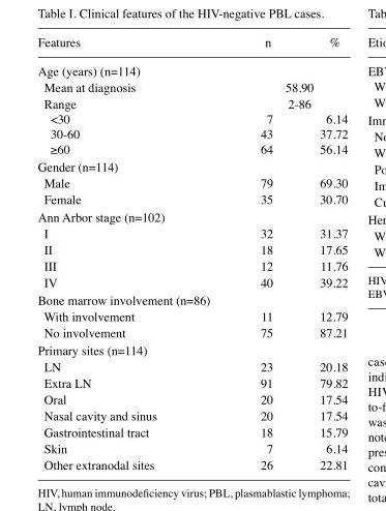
<table><thead><tr><td>Features</td><td>n</td><td>%</td></tr></thead><tbody><tr><td colspan="3">Age (years) (n=114)</td></tr><tr><td>Mean at diagnosis</td><td colspan="2">58.90</td></tr><tr><td>Range</td><td colspan="2">2-86</td></tr><tr><td>&lt;30</td><td>7</td><td>6.14</td></tr><tr><td>30-60</td><td>43</td><td>37.72</td></tr><tr><td>≥60</td><td>64</td><td>56.14</td></tr><tr><td colspan="3">gender (n=114)</td></tr><tr><td>Male</td><td>79</td><td>69.30</td></tr><tr><td>Female</td><td>35</td><td>30.70</td></tr><tr><td colspan="3">Ann Arbor stage (n=102)</td></tr><tr><td>Ⅰ</td><td>32</td><td>31.37</td></tr><tr><td>Ⅱ</td><td>18</td><td>17.65</td></tr><tr><td>Ⅲ</td><td>12</td><td>11.76</td></tr><tr><td>Ⅳ</td><td>40</td><td>39.22</td></tr><tr><td colspan="3">Bone marrow involvement (n=86)</td></tr><tr><td>With involvement</td><td>11</td><td>12.79</td></tr><tr><td>no involvement</td><td>75</td><td>87.21</td></tr><tr><td colspan="3">Primary sites (n=114)</td></tr><tr><td>Ln</td><td>23</td><td>20.18</td></tr><tr><td>Extra Ln</td><td>91</td><td>79.82</td></tr><tr><td>Oral</td><td>20</td><td>17.54</td></tr><tr><td>nasal cavity and sinus</td><td>20</td><td>17.54</td></tr><tr><td>gastrointestinal tract</td><td>18</td><td>15.79</td></tr><tr><td>Skin</td><td>7</td><td>6.14</td></tr><tr><td>Other extranodal sites</td><td>26</td><td>22.81</td></tr></tbody></table>